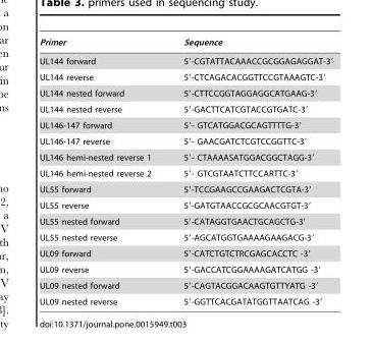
<table><thead><tr><td>Primer</td><td>Sequence</td></tr></thead><tbody><tr><td>UL144 forward</td><td>5′-CGTATTACAAACCGCGGAGAGGAT-3′</td></tr><tr><td>UL144 reverse</td><td>5′-CTCAGACACGGTTCCGTAAAGTC-3′</td></tr><tr><td>UL144 nested forward</td><td>5′-CTTCCGGTAGGAGGCATGAAG-3′</td></tr><tr><td>UL144 nested reverse</td><td>5′-GACTTCATCGTACCGTGATC-3′</td></tr><tr><td>UL146-147 forward</td><td>5′- GTCATGGACGCAGTTTTG-3′</td></tr><tr><td>UL146-147 reverse</td><td>5′- GAACGATCTCGTCCGGTTC-3′</td></tr><tr><td>UL146 hemi-nested reverse 1</td><td>5′- CTAAAASATGGACGGCTAGG-3′</td></tr><tr><td>UL146 hemi-nested reverse 2</td><td>5′- GTCGTAATCTTCCARTTC-3′</td></tr><tr><td>UL55 forward</td><td>5′-TCCGAAGCCGAAGACTCGTA-3′</td></tr><tr><td>UL55 reverse</td><td>5′-GATGTAACCGCGCAACGTGT-3′</td></tr><tr><td>UL55 nested forward</td><td>5′-CATAGGTGAACTGCAGCTG-3′</td></tr><tr><td>UL55 nested reverse</td><td>5′-AGCATGGTGAAAAGAAGACG-3′</td></tr><tr><td>UL09 forward</td><td>5′-CATCTGTCTRCGAGCACCTC -3′</td></tr><tr><td>UL09 reverse</td><td>5′-GACCATCGGAAAAGATCATGG -3′</td></tr><tr><td>UL09 nested forward</td><td>5′-CAGTACGGACAAGTGTTYATG -3′</td></tr><tr><td>UL09 nested reverse</td><td>5′-GGTTCACGATATGGTTAATCAG -3′</td></tr></tbody></table>